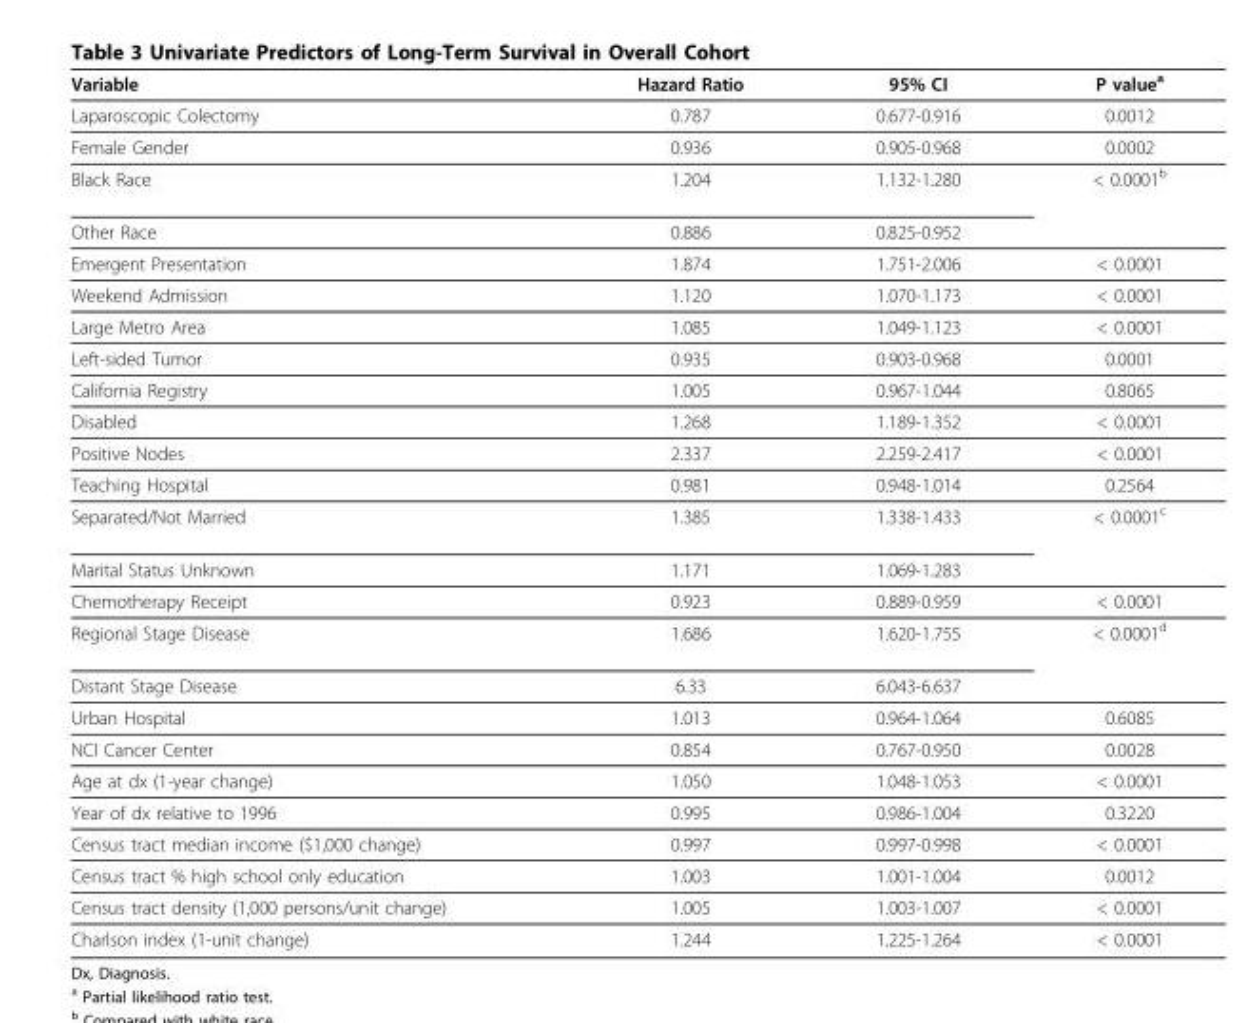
<table><thead><tr><td>Variable</td><td>Hazard Ratio</td><td>95% CI</td><td>P value<sup>a</sup></td></tr></thead><tbody><tr><td>Laparoscopic Colectomy</td><td>0.787</td><td>0.677-0.916</td><td>0.0012</td></tr><tr><td>Female Gender</td><td>0.936</td><td>0.905-0.968</td><td>0.0002</td></tr><tr><td>Black Race</td><td>1.204</td><td>1.132-1.280</td><td>&lt; 0.0001<sup>b</sup></td></tr><tr><td>Other Race</td><td>0.886</td><td>0.825-0.952</td><td></td></tr><tr><td>Emergent Presentation</td><td>1.874</td><td>1.751-2.006</td><td>&lt; 0.0001</td></tr><tr><td>Weekend Admission</td><td>1.120</td><td>1.070-1.173</td><td>&lt; 0.0001</td></tr><tr><td>Large Metro Area</td><td>1.085</td><td>1.049-1.123</td><td>&lt; 0.0001</td></tr><tr><td>Left-sided Tumor</td><td>0.935</td><td>0.903-0.968</td><td>0.0001</td></tr><tr><td>California Registry</td><td>1.005</td><td>0.967-1.044</td><td>0.8065</td></tr><tr><td>Disabled</td><td>1.268</td><td>1.189-1.352</td><td>&lt; 0.0001</td></tr><tr><td>Positive Nodes</td><td>2.337</td><td>2.259-2.417</td><td>&lt; 0.0001</td></tr><tr><td>Teaching Hospital</td><td>0.981</td><td>0.948-1.014</td><td>0.2564</td></tr><tr><td>Separated/Not Married</td><td>1.385</td><td>1.338-1.433</td><td>&lt; 0.0001<sup>c</sup></td></tr><tr><td>Marital Status Unknown</td><td>1.171</td><td>1.069-1.283</td><td></td></tr><tr><td>Chemotherapy Receipt</td><td>0.923</td><td>0.889-0.959</td><td>&lt; 0.0001</td></tr><tr><td>Regional Stage Disease</td><td>1.686</td><td>1.620-1.755</td><td>&lt; 0.0001<sup>d</sup></td></tr><tr><td>Distant Stage Disease</td><td>6.33</td><td>6.043-6.637</td><td></td></tr><tr><td>Urban Hospital</td><td>1.013</td><td>0.964-1.064</td><td>0.6085</td></tr><tr><td>NCI Cancer Center</td><td>0.854</td><td>0.767-0.950</td><td>0.0028</td></tr><tr><td>Age at dx (1-year change)</td><td>1.050</td><td>1.048-1.053</td><td>&lt; 0.0001</td></tr><tr><td>Year of dx relative to 1996</td><td>0.995</td><td>0.986-1.004</td><td>0.3220</td></tr><tr><td>Census tract median income ($1,000 change)</td><td>0.997</td><td>0.997-0.998</td><td>&lt; 0.0001</td></tr><tr><td>Census tract % high school only education</td><td>1.003</td><td>1.001-1.004</td><td>0.0012</td></tr><tr><td>Census tract density (1,000 persons/unit change)</td><td>1.005</td><td>1.003-1.007</td><td>&lt; 0.0001</td></tr><tr><td>Charlson index (1-unit change)</td><td>1.244</td><td>1.225-1.264</td><td>&lt; 0.0001</td></tr></tbody></table>